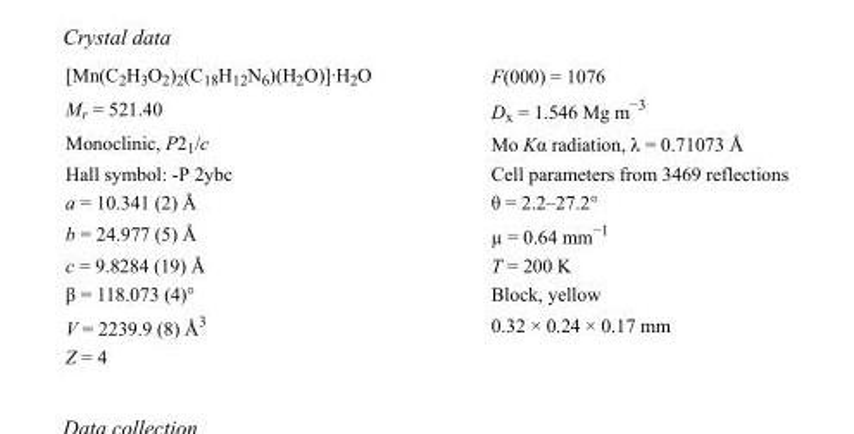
<table><tbody><tr><td>[Mn(C<sub>2</sub>H<sub>3</sub>O<sub>2</sub>)<sub>2</sub>(C<sub>18</sub>H<sub>12</sub>N<sub>6</sub>)(H<sub>2</sub>O)]·H<sub>2</sub>O</td><td>F(000) = 1076</td></tr><tr><td>M<sub>r</sub> = 521.40</td><td>D<sub>x</sub> = 1.546 Mg m<sup>−3</sup></td></tr><tr><td>Monoclinic, P2<sub>1</sub>/c</td><td>Mo Kα radiation, λ = 0.71073 Å</td></tr><tr><td>Hall symbol: -P 2ybc</td><td>Cell parameters from 3469 reflections</td></tr><tr><td>a = 10.341 (2) Å</td><td>θ = 2.2–27.2°</td></tr><tr><td>b = 24.977 (5) Å</td><td>µ = 0.64 mm<sup>−1</sup></td></tr><tr><td>c = 9.8284 (19) Å</td><td>T = 200 K</td></tr><tr><td>β = 118.073 (4)°</td><td>Block, yellow</td></tr><tr><td>V = 2239.9 (8) Å<sup>3</sup></td><td>0.32 × 0.24 × 0.17 mm</td></tr><tr><td>Z = 4</td><td></td></tr></tbody></table>